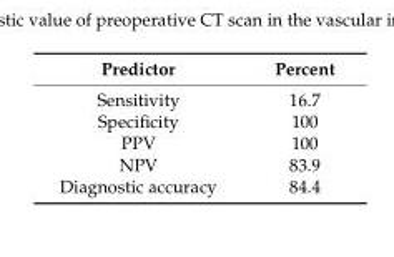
<table><thead><tr><td>Predictor</td><td>Percent</td></tr></thead><tbody><tr><td>Sensitivity</td><td>16.7</td></tr><tr><td>Specificity</td><td>100</td></tr><tr><td>PPV</td><td>100</td></tr><tr><td>NPV</td><td>83.9</td></tr><tr><td>Diagnostic accuracy</td><td>84.4</td></tr></tbody></table>